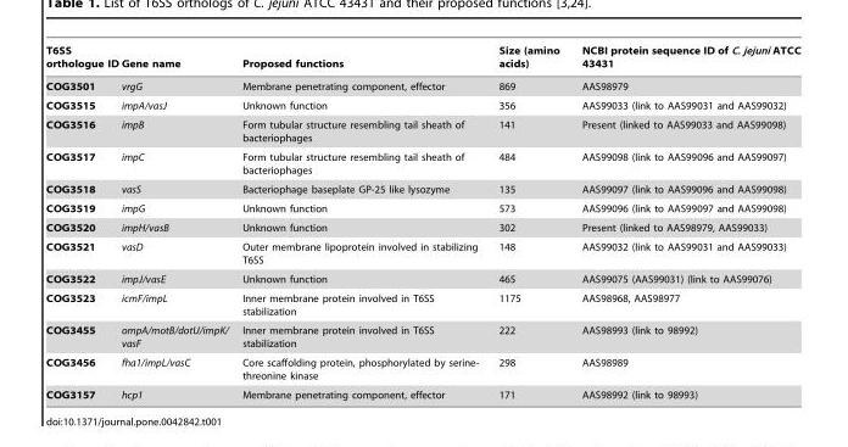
<table><thead><tr><td>T6SS orthologue ID</td><td>Gene name</td><td>Proposed functions</td><td>Size (amino acids)</td><td>NCBI protein sequence ID of C. jejuni ATCC 43431</td></tr></thead><tbody><tr><td>COG3501</td><td>vrgG</td><td>Membrane penetrating component, effector</td><td>869</td><td>AAS98979</td></tr><tr><td>COG3515</td><td>impA/vasJ</td><td>Unknown function</td><td>356</td><td>AAS99033 (link to AAS99031 and AAS99032)</td></tr><tr><td>COG3516</td><td>impB</td><td>Form tubular structure resembling tail sheath of bacteriophages</td><td>141</td><td>Present (linked to AAS99033 and AAS99098)</td></tr><tr><td>COG3517</td><td>impC</td><td>Form tubular structure resembling tail sheath of bacteriophages</td><td>484</td><td>AAS99098 (link to AAS99096 and AAS99097)</td></tr><tr><td>COG3518</td><td>vasS</td><td>Bacteriophage baseplate GP-25 like lysozyme</td><td>135</td><td>AAS99097 (link to AAS99096 and AAS99098)</td></tr><tr><td>COG3519</td><td>impG</td><td>Unknown function</td><td>573</td><td>AAS99096 (link to AAS99097 and AAS99098)</td></tr><tr><td>COG3520</td><td>impH/vasB</td><td>Unknown function</td><td>302</td><td>Present (linked to AAS98979, AAS99033)</td></tr><tr><td>COG3521</td><td>vasD</td><td>Outer membrane lipoprotein involved in stabilizing T6SS</td><td>148</td><td>AAS99032 (link to AAS99031 and AAS99033)</td></tr><tr><td>COG3522</td><td>impJ/vasE</td><td>Unknown function</td><td>465</td><td>AAS99075 (AAS99031) (link to AAS99076)</td></tr><tr><td>COG3523</td><td>icmF/impL</td><td>Inner membrane protein involved in T6SS stabilization</td><td>1175</td><td>AAS98968, AAS98977</td></tr><tr><td>COG3455</td><td>ompA/motB/dotU/impK/ vasF</td><td>Inner membrane protein involved in T6SS stabilization</td><td>222</td><td>AAS98993 (link to 98992)</td></tr><tr><td>COG3456</td><td>fha1/impL/vasC</td><td>Core scaffolding protein, phosphorylated by serine- threonine kinase</td><td>298</td><td>AAS98989</td></tr><tr><td>COG3157</td><td>hcp1</td><td>Membrane penetrating component, effector</td><td>171</td><td>AAS98992 (link to 98993)</td></tr></tbody></table>